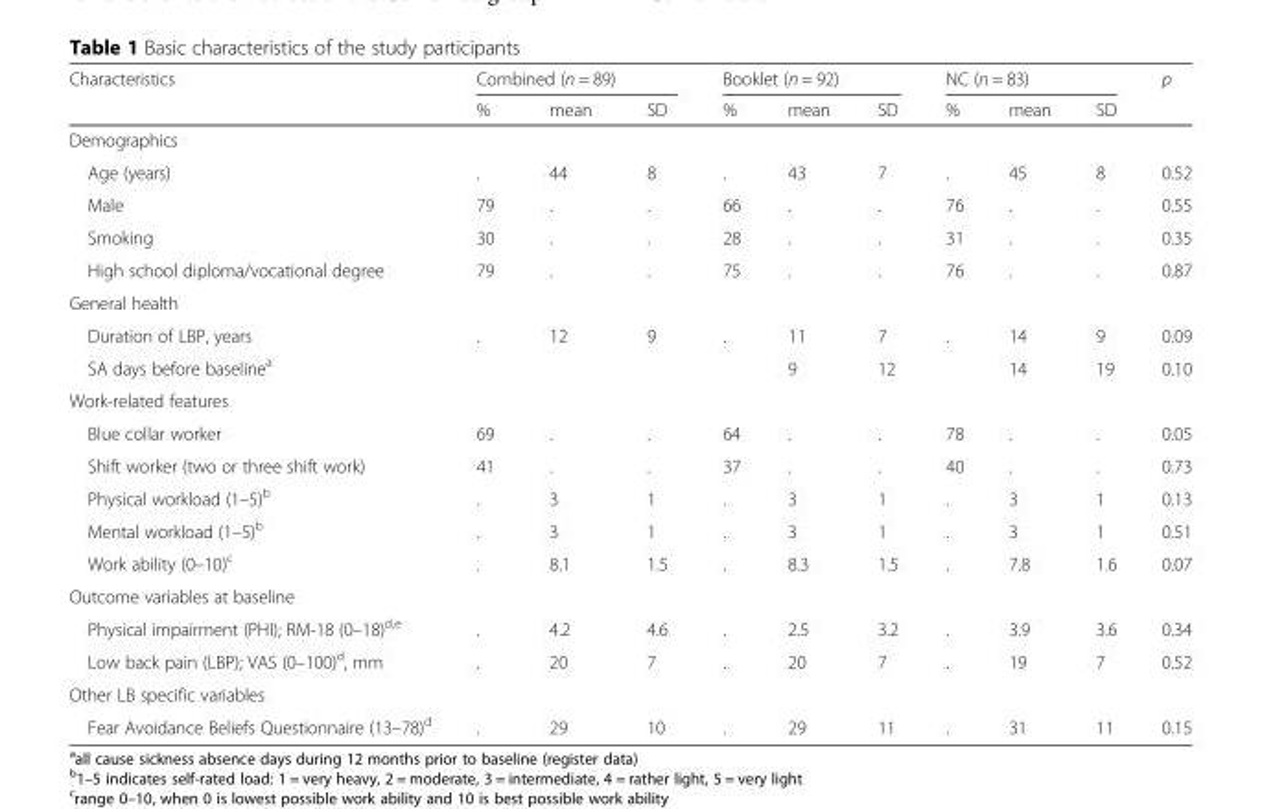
<table><thead><tr><td rowspan="2">Characteristics</td><td colspan="3">Combined (n = 89)</td><td colspan="3">Booklet (n = 92)</td><td colspan="3">NC (n = 83)</td><td rowspan="2">p</td></tr><tr><td>%</td><td>mean</td><td>SD</td><td>%</td><td>mean</td><td>SD</td><td>%</td><td>mean</td><td>SD</td></tr></thead><tbody><tr><td colspan="11">Demographics</td></tr><tr><td>Age (years)</td><td>.</td><td>44</td><td>8</td><td>.</td><td>43</td><td>7</td><td>.</td><td>45</td><td>8</td><td>0.52</td></tr><tr><td>Male</td><td>79</td><td>.</td><td>.</td><td>66</td><td>.</td><td>.</td><td>76</td><td>.</td><td>.</td><td>0.55</td></tr><tr><td>Smoking</td><td>30</td><td>.</td><td>.</td><td>28</td><td>.</td><td>.</td><td>31</td><td>.</td><td>.</td><td>0.35</td></tr><tr><td>High school diploma/vocational degree</td><td>79</td><td>.</td><td>.</td><td>75</td><td>.</td><td>.</td><td>76</td><td>.</td><td>.</td><td>0.87</td></tr><tr><td colspan="11">General health</td></tr><tr><td>Duration of LBP, years</td><td>.</td><td>12</td><td>9</td><td>.</td><td>11</td><td>7</td><td>.</td><td>14</td><td>9</td><td>0.09</td></tr><tr><td>SA days before baseline<sup>a</sup></td><td></td><td></td><td></td><td></td><td>9</td><td>12</td><td></td><td>14</td><td>19</td><td>0.10</td></tr><tr><td colspan="11">Work-related features</td></tr><tr><td>Blue collar worker</td><td>69</td><td>.</td><td>.</td><td>64</td><td>.</td><td>.</td><td>78</td><td>.</td><td>.</td><td>0.05</td></tr><tr><td>Shift worker (two or three shift work)</td><td>41</td><td>.</td><td>.</td><td>37</td><td>.</td><td>.</td><td>40</td><td>.</td><td>.</td><td>0.73</td></tr><tr><td>Physical workload (1–5)<sup>b</sup></td><td>.</td><td>3</td><td>1</td><td>.</td><td>3</td><td>1</td><td>.</td><td>3</td><td>1</td><td>0.13</td></tr><tr><td>Mental workload (1–5)<sup>b</sup></td><td>.</td><td>3</td><td>1</td><td>.</td><td>3</td><td>1</td><td>.</td><td>3</td><td>1</td><td>0.51</td></tr><tr><td>Work ability (0–10)<sup>c</sup></td><td>.</td><td>8.1</td><td>1.5</td><td>.</td><td>8.3</td><td>1.5</td><td>.</td><td>7.8</td><td>1.6</td><td>0.07</td></tr><tr><td colspan="11">Outcome variables at baseline</td></tr><tr><td>Physical impairment (PHI); RM-18 (0–18)<sup>d,e</sup></td><td>.</td><td>4.2</td><td>4.6</td><td>.</td><td>2.5</td><td>3.2</td><td>.</td><td>3.9</td><td>3.6</td><td>0.34</td></tr><tr><td>Low back pain (LBP); VAS (0–100)<sup>d</sup>, mm</td><td>.</td><td>20</td><td>7</td><td>.</td><td>20</td><td>7</td><td>.</td><td>19</td><td>7</td><td>0.52</td></tr><tr><td colspan="11">Other LB specific variables</td></tr><tr><td>Fear Avoidance Beliefs Questionnaire (13–78)<sup>d</sup></td><td>.</td><td>29</td><td>10</td><td>.</td><td>29</td><td>11</td><td>.</td><td>31</td><td>11</td><td>0.15</td></tr></tbody></table>